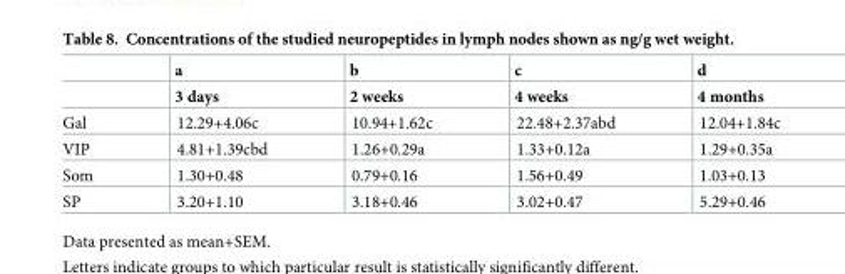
<table><thead><tr><td rowspan="2"></td><td rowspan="2">a 3 days</td><td rowspan="2">b 2 weeks</td><td rowspan="2">c 4 weeks</td><td rowspan="2">d 4 months</td></tr><tr></tr></thead><tbody><tr><td>Gal</td><td>12.29+4.06c</td><td>10.94+1.62c</td><td>22.48+2.37abd</td><td>12.04+1.84c</td></tr><tr><td>VIP</td><td>4.81+1.39cbd</td><td>1.26+0.29a</td><td>1.33+0.12a</td><td>1.29+0.35a</td></tr><tr><td>Som</td><td>1.30+0.48</td><td>0.79+0.16</td><td>1.56+0.49</td><td>1.03+0.13</td></tr><tr><td>SP</td><td>3.20+1.10</td><td>3.18+0.46</td><td>3.02+0.47</td><td>5.29+0.46</td></tr></tbody></table>